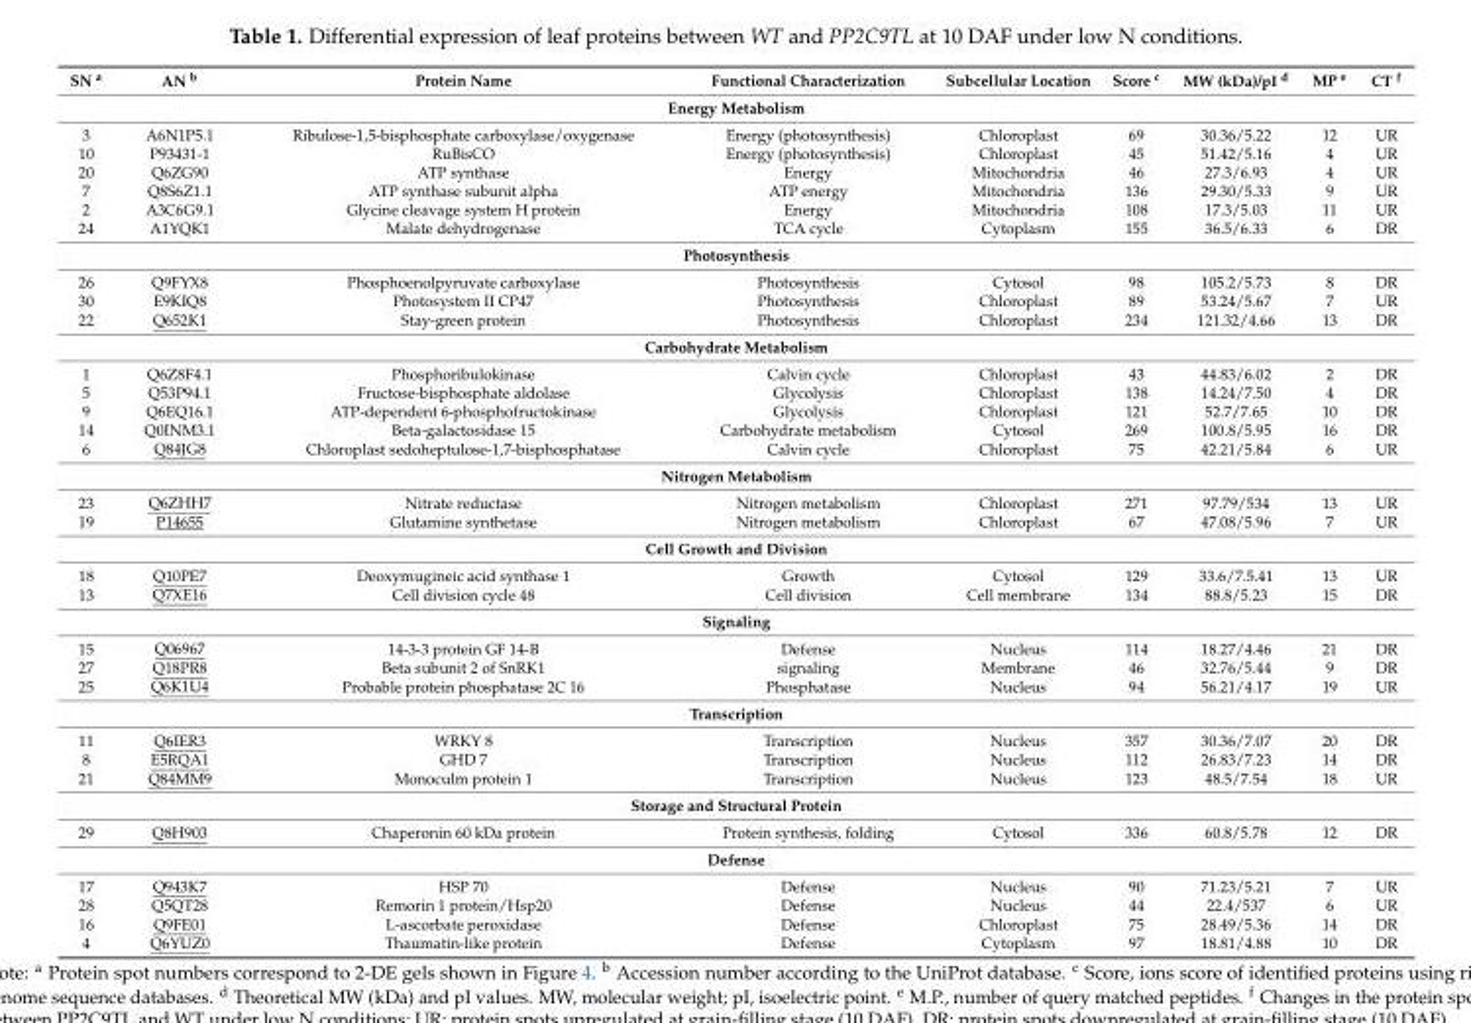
<table><thead><tr><td>SN <sup>a</sup></td><td>AN <sup>b</sup></td><td>Protein Name</td><td>Functional Characterization</td><td>Subcellular Location</td><td>Score <sup>c</sup></td><td>MW (kDa)/pI <sup>d</sup></td><td>MP <sup>e</sup></td><td>CT <sup>f</sup></td></tr></thead><tbody><tr><td colspan="9">Energy Metabolism</td></tr><tr><td>3</td><td>A6N1P5.1</td><td>Ribulose-1,5-bisphosphate carboxylase/oxygenase</td><td>Energy (photosynthesis)</td><td>Chloroplast</td><td>69</td><td>30.36/5.22</td><td>12</td><td>UR</td></tr><tr><td>10</td><td>P93431-1</td><td>RuBisCO</td><td>Energy (photosynthesis)</td><td>Chloroplast</td><td>45</td><td>51.42/5.16</td><td>4</td><td>UR</td></tr><tr><td>20</td><td>Q6ZG90</td><td>ATP synthase</td><td>Energy</td><td>Mitochondria</td><td>46</td><td>27.3/6.93</td><td>4</td><td>UR</td></tr><tr><td>7</td><td>Q8S6Z1.1</td><td>ATP synthase subunit alpha</td><td>ATP energy</td><td>Mitochondria</td><td>136</td><td>29.30/5.33</td><td>9</td><td>UR</td></tr><tr><td>2</td><td>A3C6G9.1</td><td>Glycine cleavage system H protein</td><td>Energy</td><td>Mitochondria</td><td>108</td><td>17.3/5.03</td><td>11</td><td>UR</td></tr><tr><td>24</td><td>A1YQK1</td><td>Malate dehydrogenase</td><td>TCA cycle</td><td>Cytoplasm</td><td>155</td><td>36.5/6.33</td><td>6</td><td>DR</td></tr><tr><td colspan="9">Photosynthesis</td></tr><tr><td>26</td><td>Q9FYX8</td><td>Phosphoenolpyruvate carboxylase</td><td>Photosynthesis</td><td>Cytosol</td><td>98</td><td>105.2/5.73</td><td>8</td><td>DR</td></tr><tr><td>30</td><td>E9KIQ8</td><td>Photosystem II CP47</td><td>Photosynthesis</td><td>Chloroplast</td><td>89</td><td>53.24/5.67</td><td>7</td><td>UR</td></tr><tr><td>22</td><td>Q652K1</td><td>Stay-green protein</td><td>Photosynthesis</td><td>Chloroplast</td><td>234</td><td>121.32/4.66</td><td>13</td><td>DR</td></tr><tr><td colspan="9">Carbohydrate Metabolism</td></tr><tr><td>1</td><td>Q6Z8F4.1</td><td>Phosphoribulokinase</td><td>Calvin cycle</td><td>Chloroplast</td><td>43</td><td>44.83/6.02</td><td>2</td><td>DR</td></tr><tr><td>5</td><td>Q53P94.1</td><td>Fructose-bisphosphate aldolase</td><td>Glycolysis</td><td>Chloroplast</td><td>138</td><td>14.24/7.50</td><td>4</td><td>DR</td></tr><tr><td>9</td><td>Q6EQ16.1</td><td>ATP-dependent 6-phosphofructokinase</td><td>Glycolysis</td><td>Chloroplast</td><td>121</td><td>52.7/7.65</td><td>10</td><td>DR</td></tr><tr><td>14</td><td>Q0INM3.1</td><td>Beta-galactosidase 15</td><td>Carbohydrate metabolism</td><td>Cytosol</td><td>269</td><td>100.8/5.95</td><td>16</td><td>DR</td></tr><tr><td>6</td><td>Q84JG8</td><td>Chloroplast sedoheptulose-1,7-bisphosphatase</td><td>Calvin cycle</td><td>Chloroplast</td><td>75</td><td>42.21/5.84</td><td>6</td><td>UR</td></tr><tr><td colspan="9">Nitrogen Metabolism</td></tr><tr><td>23</td><td>Q6ZHH7</td><td>Nitrate reductase</td><td>Nitrogen metabolism</td><td>Chloroplast</td><td>271</td><td>97.79/534</td><td>13</td><td>UR</td></tr><tr><td>19</td><td>P14655</td><td>Glutamine synthetase</td><td>Nitrogen metabolism</td><td>Chloroplast</td><td>67</td><td>47.08/5.96</td><td>7</td><td>UR</td></tr><tr><td colspan="9">Cell Growth and Division</td></tr><tr><td>18</td><td>Q10PE7</td><td>Deoxymugineic acid synthase 1</td><td>Growth</td><td>Cytosol</td><td>129</td><td>33.6/7.5.41</td><td>13</td><td>UR</td></tr><tr><td>13</td><td>Q7XE16</td><td>Cell division cycle 48</td><td>Cell division</td><td>Cell membrane</td><td>134</td><td>88.8/5.23</td><td>15</td><td>DR</td></tr><tr><td colspan="9">Signaling</td></tr><tr><td>15</td><td>Q06967</td><td>14-3-3 protein GF 14-B</td><td>Defense</td><td>Nucleus</td><td>114</td><td>18.27/4.46</td><td>21</td><td>DR</td></tr><tr><td>27</td><td>Q18PR8</td><td>Beta subunit 2 of SnRK1</td><td>signaling</td><td>Membrane</td><td>46</td><td>32.76/5.44</td><td>9</td><td>DR</td></tr><tr><td>25</td><td>Q6K1U4</td><td>Probable protein phosphatase 2C 16</td><td>Phosphatase</td><td>Nucleus</td><td>94</td><td>56.21/4.17</td><td>19</td><td>UR</td></tr><tr><td colspan="9">Transcription</td></tr><tr><td>11</td><td>Q6IER3</td><td>WRKY 8</td><td>Transcription</td><td>Nucleus</td><td>357</td><td>30.36/7.07</td><td>20</td><td>DR</td></tr><tr><td>8</td><td>E5RQA1</td><td>GHD 7</td><td>Transcription</td><td>Nucleus</td><td>112</td><td>26.83/7.23</td><td>14</td><td>DR</td></tr><tr><td>21</td><td>Q84MM9</td><td>Monoculm protein 1</td><td>Transcription</td><td>Nucleus</td><td>123</td><td>48.5/7.54</td><td>18</td><td>UR</td></tr><tr><td colspan="9">Storage and Structural Protein</td></tr><tr><td>29</td><td>Q8H903</td><td>Chaperonin 60 kDa protein</td><td>Protein synthesis, folding</td><td>Cytosol</td><td>336</td><td>60.8/5.78</td><td>12</td><td>DR</td></tr><tr><td colspan="9">Defense</td></tr><tr><td>17</td><td>Q943K7</td><td>HSP 70</td><td>Defense</td><td>Nucleus</td><td>90</td><td>71.23/5.21</td><td>7</td><td>UR</td></tr><tr><td>28</td><td>Q5QT28</td><td>Remorin 1 protein/Hsp20</td><td>Defense</td><td>Nucleus</td><td>44</td><td>22.4/537</td><td>6</td><td>UR</td></tr><tr><td>16</td><td>Q9FE01</td><td>L-ascorbate peroxidase</td><td>Defense</td><td>Chloroplast</td><td>75</td><td>28.49/5.36</td><td>14</td><td>DR</td></tr><tr><td>4</td><td>Q6YUZ0</td><td>Thaumatin-like protein</td><td>Defense</td><td>Cytoplasm</td><td>97</td><td>18.81/4.88</td><td>10</td><td>DR</td></tr></tbody></table>